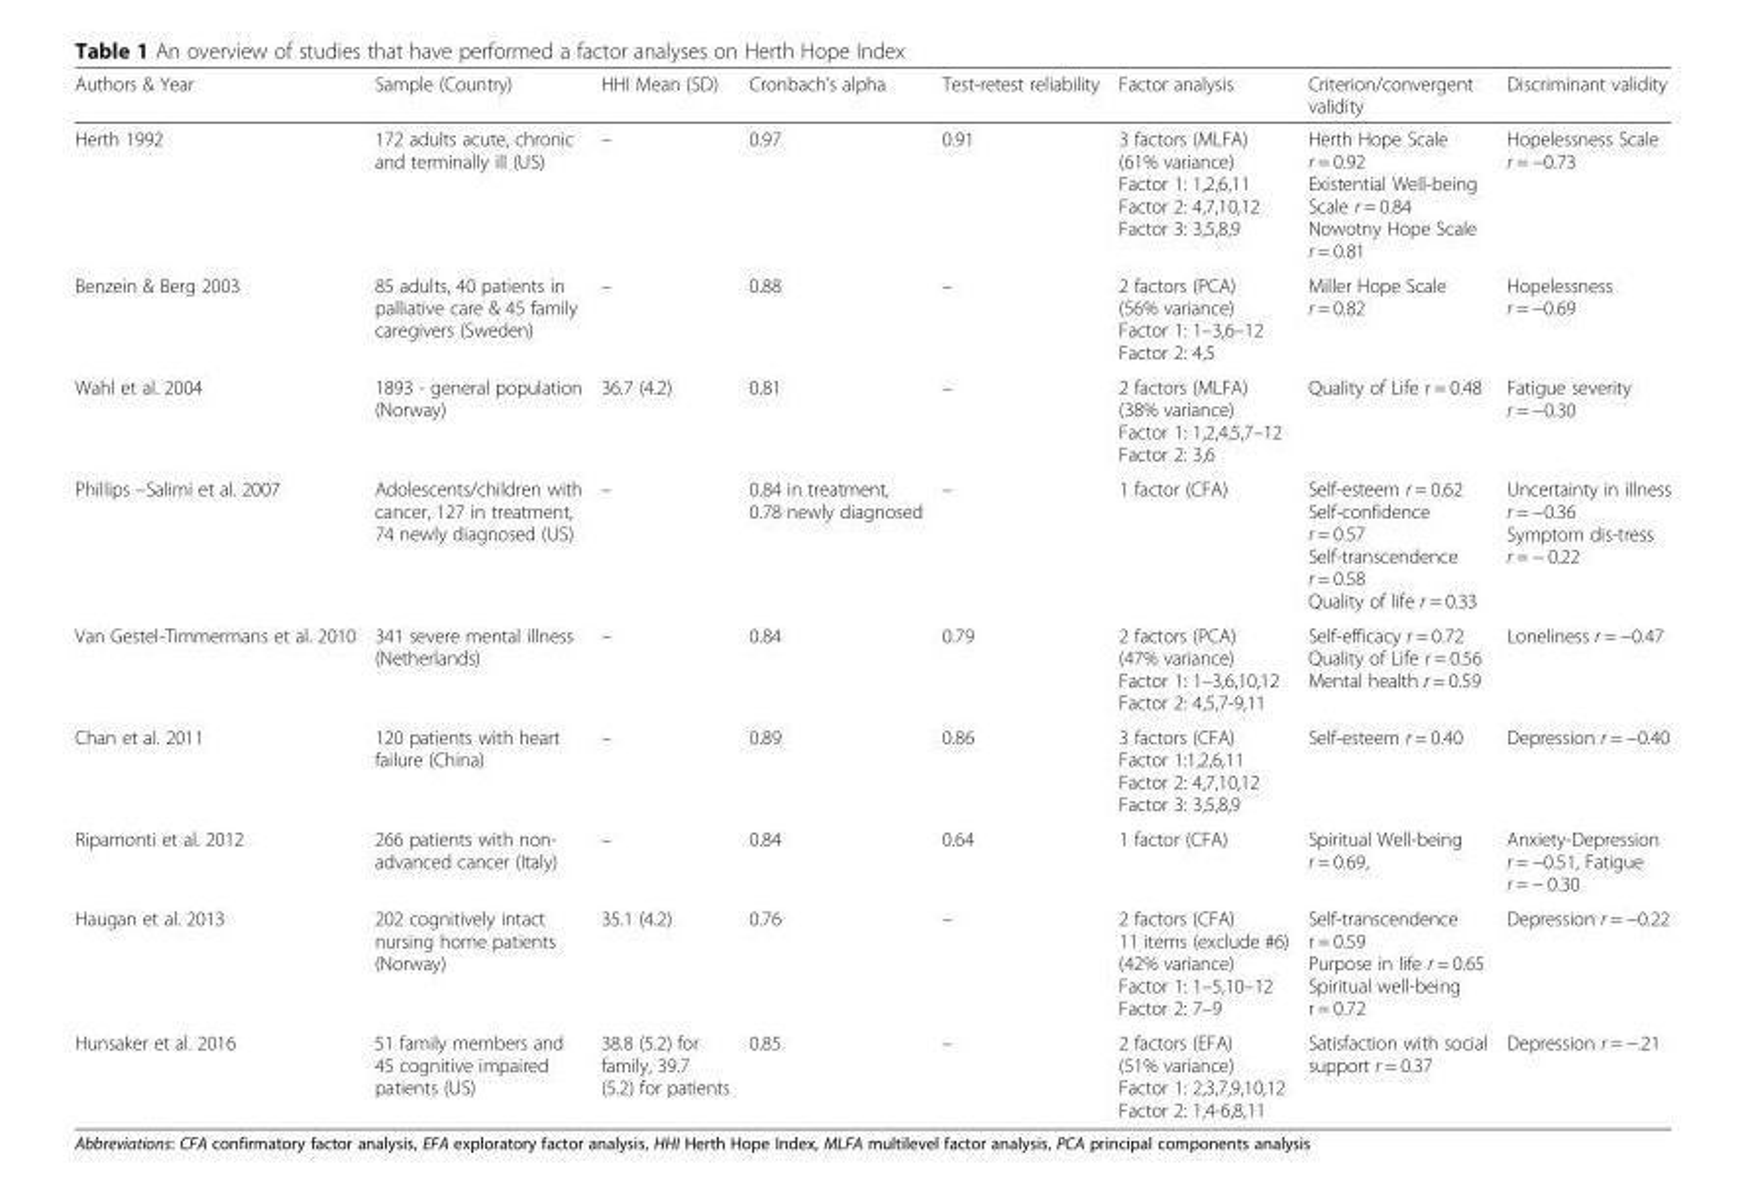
<table><thead><tr><td>Authors &amp; Year</td><td>Sample (Country)</td><td>HHI Mean (SD)</td><td>Cronbach’s alpha</td><td>Test-retest reliability</td><td>Factor analysis</td><td>Criterion/convergent validity</td><td>Discriminant validity</td></tr></thead><tbody><tr><td>Herth 1992</td><td>172 adults acute, chronic and terminally ill (US)</td><td>–</td><td>0.97</td><td>0.91</td><td>3 factors (MLFA) (61% variance) Factor 1: 1,2,6,11 Factor 2: 4,7,10,12 Factor 3: 3,5,8,9</td><td>Herth Hope Scale r = 0.92 Existential Well-being Scale r = 0.84 Nowotny Hope Scale r = 0.81</td><td>Hopelessness Scale r = −0.73</td></tr><tr><td>Benzein &amp; Berg 2003</td><td>85 adults, 40 patients in palliative care &amp; 45 family caregivers (Sweden)</td><td>–</td><td>0.88</td><td>–</td><td>2 factors (PCA) (56% variance) Factor 1: 1–3,6–12 Factor 2: 4,5</td><td>Miller Hope Scale r = 0.82</td><td>Hopelessness r = −0.69</td></tr><tr><td>Wahl et al. 2004</td><td>1893 - general population (Norway)</td><td>36.7 (4.2)</td><td>0.81</td><td>–</td><td>2 factors (MLFA) (38% variance) Factor 1: 1,2,4,5,7–12 Factor 2: 3,6</td><td>Quality of Life r = 0.48</td><td>Fatigue severity r = −0.30</td></tr><tr><td>Phillips –Salimi et al. 2007</td><td>Adolescents/children with cancer, 127 in treatment, 74 newly diagnosed (US)</td><td>–</td><td>0.84 in treatment, 0.78 newly diagnosed</td><td>–</td><td>1 factor (CFA)</td><td>Self-esteem r = 0.62 Self-confidence r = 0.57 Self-transcendence r = 0.58 Quality of life r = 0.33</td><td>Uncertainty in illness r = −0.36 Symptom dis-tress r = − 0.22</td></tr><tr><td>Van Gestel-Timmermans et al. 2010</td><td>341 severe mental illness (Netherlands)</td><td>–</td><td>0.84</td><td>0.79</td><td>2 factors (PCA) (47% variance) Factor 1: 1–3,6,10,12 Factor 2: 4,5,7-9,11</td><td>Self-efficacy r = 0.72 Quality of Life r = 0.56 Mental health r = 0.59</td><td>Loneliness r = −0.47</td></tr><tr><td>Chan et al. 2011</td><td>120 patients with heart failure (China)</td><td>–</td><td>0.89</td><td>0.86</td><td>3 factors (CFA) Factor 1:1,2,6,11 Factor 2: 4,7,10,12 Factor 3: 3,5,8,9</td><td>Self-esteem r = 0.40</td><td>Depression r = −0.40</td></tr><tr><td>Ripamonti et al. 2012</td><td>266 patients with non- advanced cancer (Italy)</td><td>–</td><td>0.84</td><td>0.64</td><td>1 factor (CFA)</td><td>Spiritual Well-being r = 0.69,</td><td>Anxiety-Depression r = −0.51, Fatigue r = − 0.30</td></tr><tr><td>Haugan et al. 2013</td><td>202 cognitively intact nursing home patients (Norway)</td><td>35.1 (4.2)</td><td>0.76</td><td>–</td><td>2 factors (CFA) 11 items (exclude #6) (42% variance) Factor 1: 1–5,10–12 Factor 2: 7–9</td><td>Self-transcendence r = 0.59 Purpose in life r = 0.65 Spiritual well-being r = 0.72</td><td>Depression r = −0.22</td></tr><tr><td>Hunsaker et al. 2016</td><td>51 family members and 45 cognitive impaired patients (US)</td><td>38.8 (5.2) for family, 39.7 (5.2) for patients</td><td>0.85</td><td>–</td><td>2 factors (EFA) (51% variance) Factor 1: 2,3,7,9,10,12 Factor 2: 1,4-6,8,11</td><td>Satisfaction with social support r = 0.37</td><td>Depression r = −.21</td></tr></tbody></table>